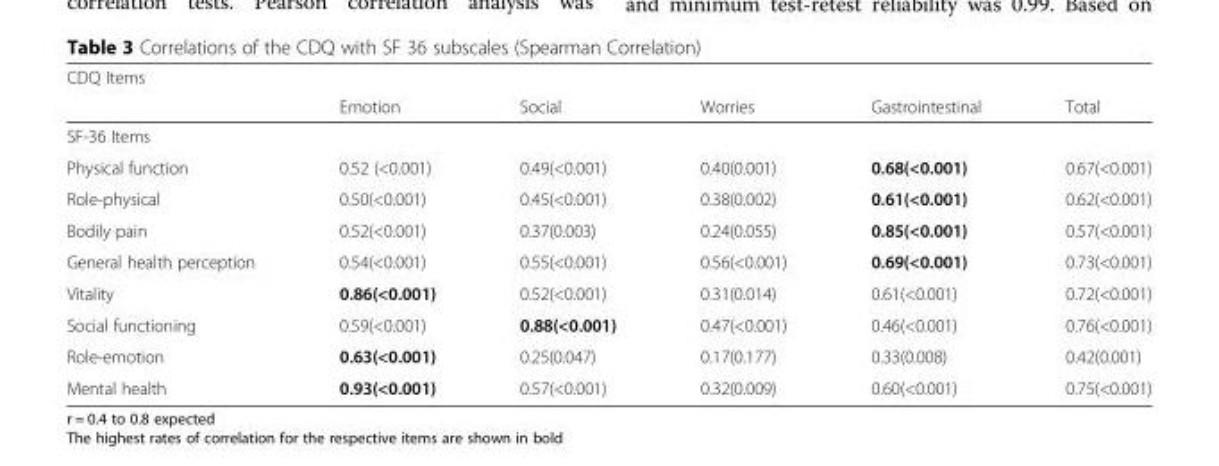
<table><thead><tr><td colspan="6">CDQ Items</td></tr><tr><td></td><td>Emotion</td><td>Social</td><td>Worries</td><td>Gastrointestinal</td><td>Total</td></tr></thead><tbody><tr><td colspan="6">SF-36 Items</td></tr><tr><td>Physical function</td><td>0.52 (&lt;0.001)</td><td>0.49(&lt;0.001)</td><td>0.40(0.001)</td><td>0.68(&lt;0.001)</td><td>0.67(&lt;0.001)</td></tr><tr><td>Role-physical</td><td>0.50(&lt;0.001)</td><td>0.45(&lt;0.001)</td><td>0.38(0.002)</td><td>0.61(&lt;0.001)</td><td>0.62(&lt;0.001)</td></tr><tr><td>Bodily pain</td><td>0.52(&lt;0.001)</td><td>0.37(0.003)</td><td>0.24(0.055)</td><td>0.85(&lt;0.001)</td><td>0.57(&lt;0.001)</td></tr><tr><td>General health perception</td><td>0.54(&lt;0.001)</td><td>0.55(&lt;0.001)</td><td>0.56(&lt;0.001)</td><td>0.69(&lt;0.001)</td><td>0.73(&lt;0.001)</td></tr><tr><td>Vitality</td><td>0.86(&lt;0.001)</td><td>0.52(&lt;0.001)</td><td>0.31(0.014)</td><td>0.61(&lt;0.001)</td><td>0.72(&lt;0.001)</td></tr><tr><td>Social functioning</td><td>0.59(&lt;0.001)</td><td>0.88(&lt;0.001)</td><td>0.47(&lt;0.001)</td><td>0.46(&lt;0.001)</td><td>0.76(&lt;0.001)</td></tr><tr><td>Role-emotion</td><td>0.63(&lt;0.001)</td><td>0.25(0.047)</td><td>0.17(0.177)</td><td>0.33(0.008)</td><td>0.42(0.001)</td></tr><tr><td>Mental health</td><td>0.93(&lt;0.001)</td><td>0.57(&lt;0.001)</td><td>0.32(0.009)</td><td>0.60(&lt;0.001)</td><td>0.75(&lt;0.001)</td></tr></tbody></table>